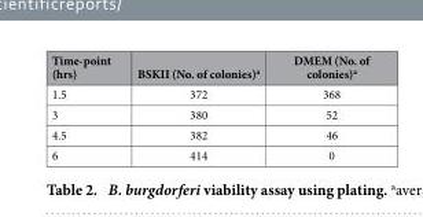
<table><thead><tr><td>Time-point (hrs)</td><td>BSKII (No. of colonies)<sup>a</sup></td><td>DMEM (No. of colonies)<sup>a</sup></td></tr></thead><tbody><tr><td>1.5</td><td>372</td><td>368</td></tr><tr><td>3</td><td>380</td><td>52</td></tr><tr><td>4.5</td><td>382</td><td>46</td></tr><tr><td>6</td><td>414</td><td>0</td></tr></tbody></table>